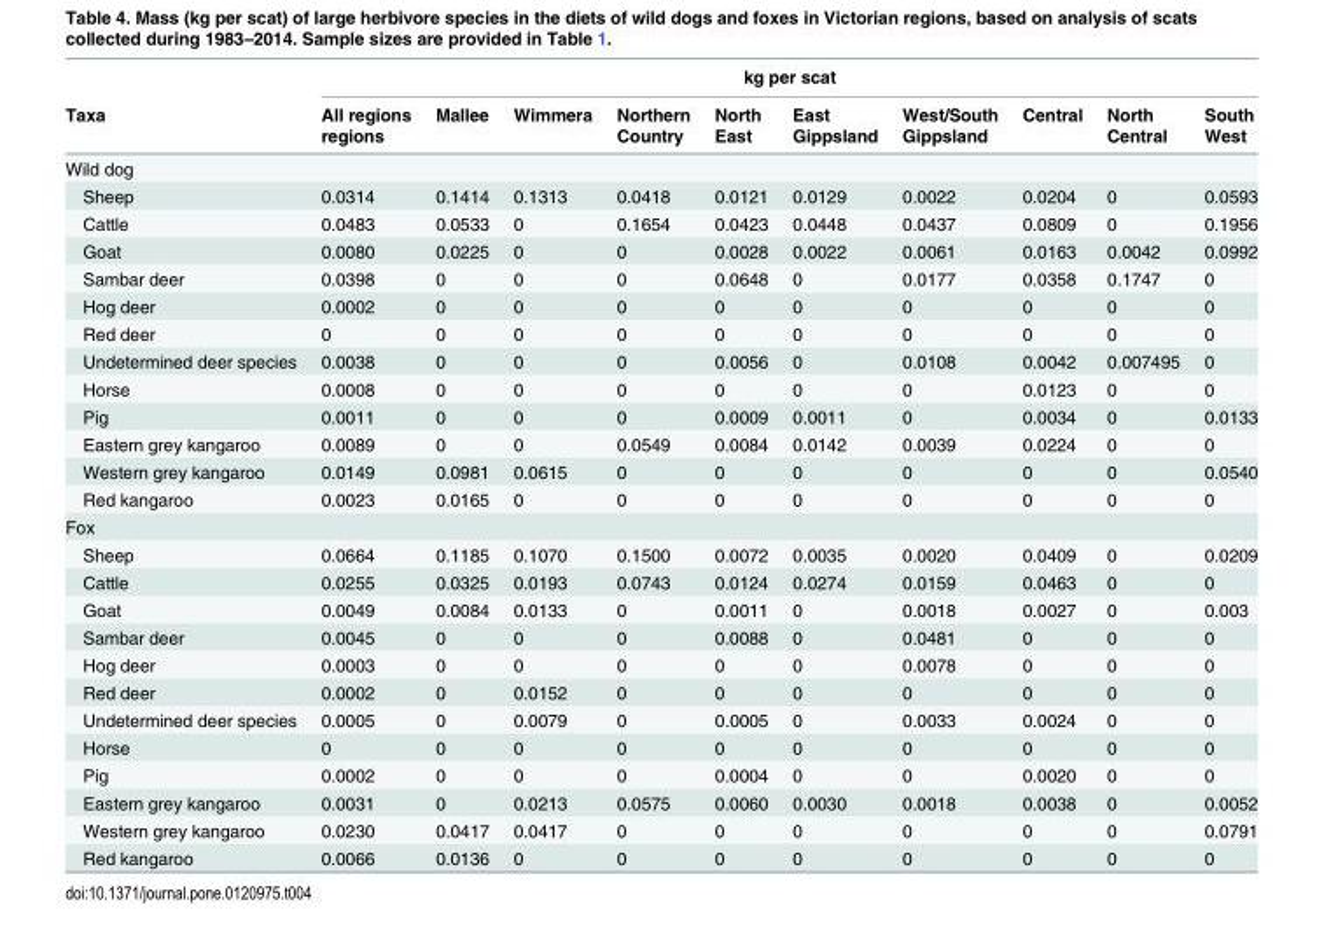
<table><thead><tr><td rowspan="3">Taxa</td><td colspan="10">kg per scat</td></tr><tr><td rowspan="2">All regions regions</td><td rowspan="2">Mallee</td><td rowspan="2">Wimmera</td><td rowspan="2">Northern Country</td><td rowspan="2">North East</td><td rowspan="2">East Gippsland</td><td rowspan="2">West/South Gippsland</td><td rowspan="2">Central</td><td rowspan="2">North Central</td><td rowspan="2">South West</td></tr><tr></tr></thead><tbody><tr><td colspan="11">Wild dog</td></tr><tr><td>Sheep</td><td>0.0314</td><td>0.1414</td><td>0.1313</td><td>0.0418</td><td>0.0121</td><td>0.0129</td><td>0.0022</td><td>0.0204</td><td>0</td><td>0.0593</td></tr><tr><td>Cattle</td><td>0.0483</td><td>0.0533</td><td>0</td><td>0.1654</td><td>0.0423</td><td>0.0448</td><td>0.0437</td><td>0.0809</td><td>0</td><td>0.1956</td></tr><tr><td>Goat</td><td>0.0080</td><td>0.0225</td><td>0</td><td>0</td><td>0.0028</td><td>0.0022</td><td>0.0061</td><td>0.0163</td><td>0.0042</td><td>0.0992</td></tr><tr><td>Sambar deer</td><td>0.0398</td><td>0</td><td>0</td><td>0</td><td>0.0648</td><td>0</td><td>0.0177</td><td>0.0358</td><td>0.1747</td><td>0</td></tr><tr><td>Hog deer</td><td>0.0002</td><td>0</td><td>0</td><td>0</td><td>0</td><td>0</td><td>0</td><td>0</td><td>0</td><td>0</td></tr><tr><td>Red deer</td><td>0</td><td>0</td><td>0</td><td>0</td><td>0</td><td>0</td><td>0</td><td>0</td><td>0</td><td>0</td></tr><tr><td>Undetermined deer species</td><td>0.0038</td><td>0</td><td>0</td><td>0</td><td>0.0056</td><td>0</td><td>0.0108</td><td>0.0042</td><td>0.007495</td><td>0</td></tr><tr><td>Horse</td><td>0.0008</td><td>0</td><td>0</td><td>0</td><td>0</td><td>0</td><td>0</td><td>0.0123</td><td>0</td><td>0</td></tr><tr><td>Pig</td><td>0.0011</td><td>0</td><td>0</td><td>0</td><td>0.0009</td><td>0.0011</td><td>0</td><td>0.0034</td><td>0</td><td>0.0133</td></tr><tr><td>Eastern grey kangaroo</td><td>0.0089</td><td>0</td><td>0</td><td>0.0549</td><td>0.0084</td><td>0.0142</td><td>0.0039</td><td>0.0224</td><td>0</td><td>0</td></tr><tr><td>Western grey kangaroo</td><td>0.0149</td><td>0.0981</td><td>0.0615</td><td>0</td><td>0</td><td>0</td><td>0</td><td>0</td><td>0</td><td>0.0540</td></tr><tr><td>Red kangaroo</td><td>0.0023</td><td>0.0165</td><td>0</td><td>0</td><td>0</td><td>0</td><td>0</td><td>0</td><td>0</td><td>0</td></tr><tr><td colspan="11">Fox</td></tr><tr><td>Sheep</td><td>0.0664</td><td>0.1185</td><td>0.1070</td><td>0.1500</td><td>0.0072</td><td>0.0035</td><td>0.0020</td><td>0.0409</td><td>0</td><td>0.0209</td></tr><tr><td>Cattle</td><td>0.0255</td><td>0.0325</td><td>0.0193</td><td>0.0743</td><td>0.0124</td><td>0.0274</td><td>0.0159</td><td>0.0463</td><td>0</td><td>0</td></tr><tr><td>Goat</td><td>0.0049</td><td>0.0084</td><td>0.0133</td><td>0</td><td>0.0011</td><td>0</td><td>0.0018</td><td>0.0027</td><td>0</td><td>0.003</td></tr><tr><td>Sambar deer</td><td>0.0045</td><td>0</td><td>0</td><td>0</td><td>0.0088</td><td>0</td><td>0.0481</td><td>0</td><td>0</td><td>0</td></tr><tr><td>Hog deer</td><td>0.0003</td><td>0</td><td>0</td><td>0</td><td>0</td><td>0</td><td>0.0078</td><td>0</td><td>0</td><td>0</td></tr><tr><td>Red deer</td><td>0.0002</td><td>0</td><td>0.0152</td><td>0</td><td>0</td><td>0</td><td>0</td><td>0</td><td>0</td><td>0</td></tr><tr><td>Undetermined deer species</td><td>0.0005</td><td>0</td><td>0.0079</td><td>0</td><td>0.0005</td><td>0</td><td>0.0033</td><td>0.0024</td><td>0</td><td>0</td></tr><tr><td>Horse</td><td>0</td><td>0</td><td>0</td><td>0</td><td>0</td><td>0</td><td>0</td><td>0</td><td>0</td><td>0</td></tr><tr><td>Pig</td><td>0.0002</td><td>0</td><td>0</td><td>0</td><td>0.0004</td><td>0</td><td>0</td><td>0.0020</td><td>0</td><td>0</td></tr><tr><td>Eastern grey kangaroo</td><td>0.0031</td><td>0</td><td>0.0213</td><td>0.0575</td><td>0.0060</td><td>0.0030</td><td>0.0018</td><td>0.0038</td><td>0</td><td>0.0052</td></tr><tr><td>Western grey kangaroo</td><td>0.0230</td><td>0.0417</td><td>0.0417</td><td>0</td><td>0</td><td>0</td><td>0</td><td>0</td><td>0</td><td>0.0791</td></tr><tr><td>Red kangaroo</td><td>0.0066</td><td>0.0136</td><td>0</td><td>0</td><td>0</td><td>0</td><td>0</td><td>0</td><td>0</td><td>0</td></tr></tbody></table>